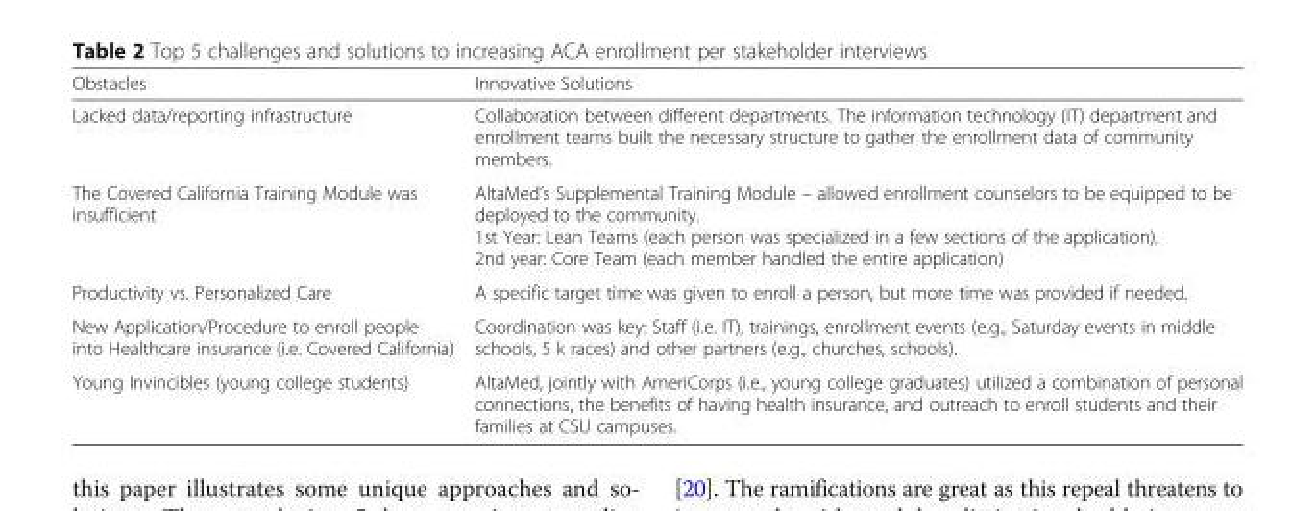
<table><thead><tr><td>Obstacles</td><td>Innovative Solutions</td></tr></thead><tbody><tr><td>Lacked data/reporting infrastructure</td><td>Collaboration between different departments. The information technology (IT) department and enrollment teams built the necessary structure to gather the enrollment data of community members.</td></tr><tr><td>The Covered California Training Module was insufficient</td><td>AltaMed’s Supplemental Training Module – allowed enrollment counselors to be equipped to be deployed to the community. 1st Year: Lean Teams (each person was specialized in a few sections of the application). 2nd year: Core Team (each member handled the entire application)</td></tr><tr><td>Productivity vs. Personalized Care</td><td>A specific target time was given to enroll a person, but more time was provided if needed.</td></tr><tr><td>New Application/Procedure to enroll people into Healthcare insurance (i.e. Covered California)</td><td>Coordination was key: Staff (i.e. IT), trainings, enrollment events (e.g., Saturday events in middle schools, 5 k races) and other partners (e.g., churches, schools).</td></tr><tr><td>Young Invincibles (young college students)</td><td>AltaMed, jointly with AmeriCorps (i.e., young college graduates) utilized a combination of personal connections, the benefits of having health insurance, and outreach to enroll students and their families at CSU campuses.</td></tr></tbody></table>